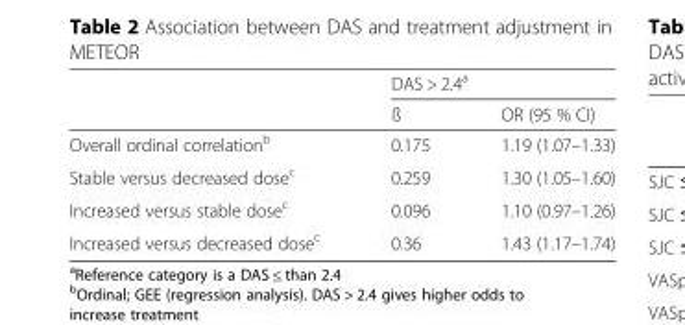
<table><thead><tr><td rowspan="2"></td><td colspan="2">DAS &gt; 2.4<sup>a</sup></td></tr><tr><td>ß</td><td>OR (95 % CI)</td></tr></thead><tbody><tr><td>Overall ordinal correlation<sup>b</sup></td><td>0.175</td><td>1.19 (1.07–1.33)</td></tr><tr><td>Stable versus decreased dose<sup>c</sup></td><td>0.259</td><td>1.30 (1.05–1.60)</td></tr><tr><td>Increased versus stable dose<sup>c</sup></td><td>0.096</td><td>1.10 (0.97–1.26)</td></tr><tr><td>Increased versus decreased dose<sup>c</sup></td><td>0.36</td><td>1.43 (1.17–1.74)</td></tr></tbody></table>